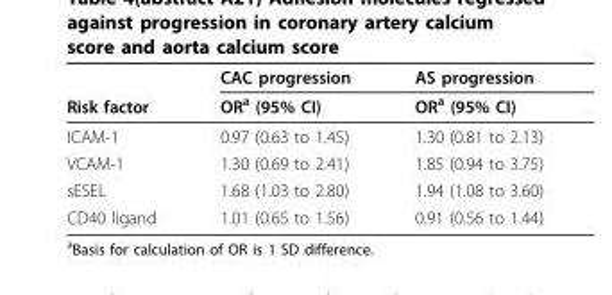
<table><thead><tr><td rowspan="2">Risk factor</td><td rowspan="2">CAC progression OR<sup>a</sup> (95% CI)</td><td rowspan="2">AS progression OR<sup>a</sup> (95% CI)</td></tr><tr></tr></thead><tbody><tr><td>ICAM-1</td><td>0.97 (0.63 to 1.45)</td><td>1.30 (0.81 to 2.13)</td></tr><tr><td>VCAM-1</td><td>1.30 (0.69 to 2.41)</td><td>1.85 (0.94 to 3.75)</td></tr><tr><td>sESEL</td><td>1.68 (1.03 to 2.80)</td><td>1.94 (1.08 to 3.60)</td></tr><tr><td>CD40 ligand</td><td>1.01 (0.65 to 1.56)</td><td>0.91 (0.56 to 1.44)</td></tr></tbody></table>